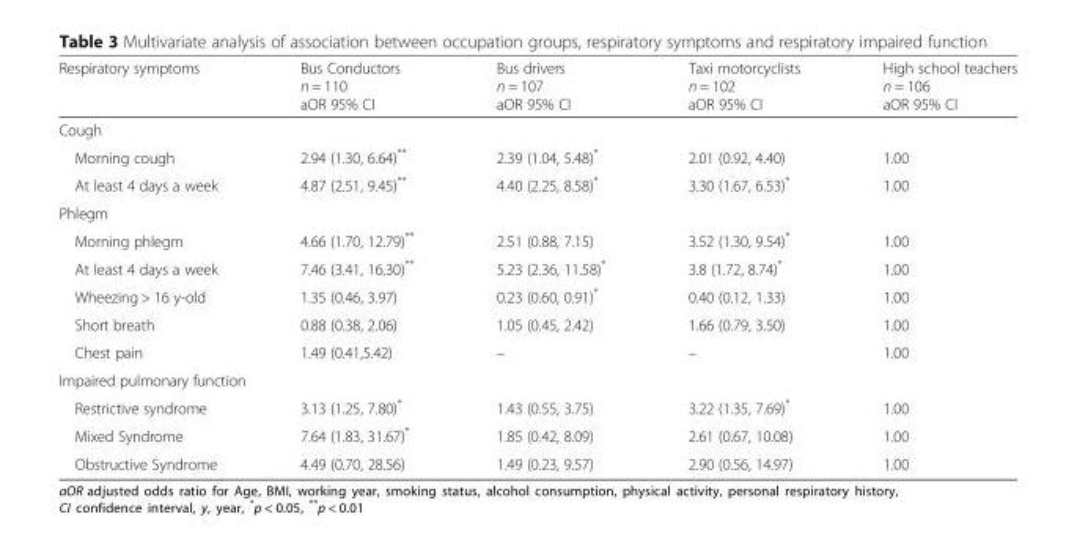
<table><thead><tr><td>Respiratory symptoms</td><td>Bus Conductors n = 110 aOR 95% CI</td><td>Bus drivers n = 107 aOR 95% CI</td><td>Taxi motorcyclists n = 102 aOR 95% CI</td><td>High school teachers n = 106 aOR 95% CI</td></tr></thead><tbody><tr><td colspan="5">Cough</td></tr><tr><td>Morning cough</td><td>2.94 (1.30, 6.64)**</td><td>2.39 (1.04, 5.48)*</td><td>2.01 (0.92, 4.40)</td><td>1.00</td></tr><tr><td>At least 4 days a week</td><td>4.87 (2.51, 9.45)**</td><td>4.40 (2.25, 8.58)*</td><td>3.30 (1.67, 6.53)*</td><td>1.00</td></tr><tr><td colspan="5">Phlegm</td></tr><tr><td>Morning phlegm</td><td>4.66 (1.70, 12.79)**</td><td>2.51 (0.88, 7.15)</td><td>3.52 (1.30, 9.54)*</td><td>1.00</td></tr><tr><td>At least 4 days a week</td><td>7.46 (3.41, 16.30)**</td><td>5.23 (2.36, 11.58)*</td><td>3.8 (1.72, 8.74)*</td><td>1.00</td></tr><tr><td>Wheezing &gt; 16 y-old</td><td>1.35 (0.46, 3.97)</td><td>0.23 (0.60, 0.91)*</td><td>0.40 (0.12, 1.33)</td><td>1.00</td></tr><tr><td>Short breath</td><td>0.88 (0.38, 2.06)</td><td>1.05 (0.45, 2.42)</td><td>1.66 (0.79, 3.50)</td><td>1.00</td></tr><tr><td>Chest pain</td><td>1.49 (0.41,5.42)</td><td>–</td><td>–</td><td>1.00</td></tr><tr><td colspan="5">Impaired pulmonary function</td></tr><tr><td>Restrictive syndrome</td><td>3.13 (1.25, 7.80)*</td><td>1.43 (0.55, 3.75)</td><td>3.22 (1.35, 7.69)*</td><td>1.00</td></tr><tr><td>Mixed Syndrome</td><td>7.64 (1.83, 31.67)*</td><td>1.85 (0.42, 8.09)</td><td>2.61 (0.67, 10.08)</td><td>1.00</td></tr><tr><td>Obstructive Syndrome</td><td>4.49 (0.70, 28.56)</td><td>1.49 (0.23, 9.57)</td><td>2.90 (0.56, 14.97)</td><td>1.00</td></tr></tbody></table>